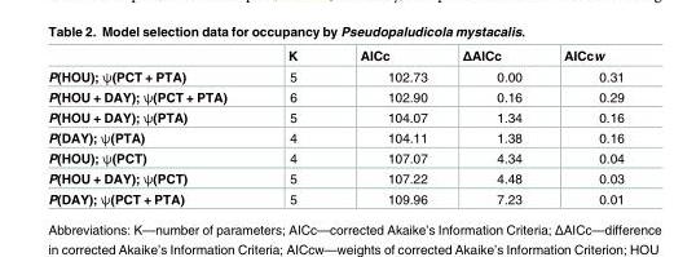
<table><thead><tr><td></td><td>K</td><td>AICc</td><td>ΔAICc</td><td>AICcw</td></tr></thead><tbody><tr><td>P(HOU); ѱ(PCT + PTA)</td><td>5</td><td>102.73</td><td>0.00</td><td>0.31</td></tr><tr><td>P(HOU + DAY); ѱ(PCT + PTA)</td><td>6</td><td>102.90</td><td>0.16</td><td>0.29</td></tr><tr><td>P(HOU + DAY); ѱ(PTA)</td><td>5</td><td>104.07</td><td>1.34</td><td>0.16</td></tr><tr><td>P(DAY); ѱ(PTA)</td><td>4</td><td>104.11</td><td>1.38</td><td>0.16</td></tr><tr><td>P(HOU); ѱ(PCT)</td><td>4</td><td>107.07</td><td>4.34</td><td>0.04</td></tr><tr><td>P(HOU + DAY); ѱ(PCT)</td><td>5</td><td>107.22</td><td>4.48</td><td>0.03</td></tr><tr><td>P(DAY); ѱ(PCT + PTA)</td><td>5</td><td>109.96</td><td>7.23</td><td>0.01</td></tr></tbody></table>